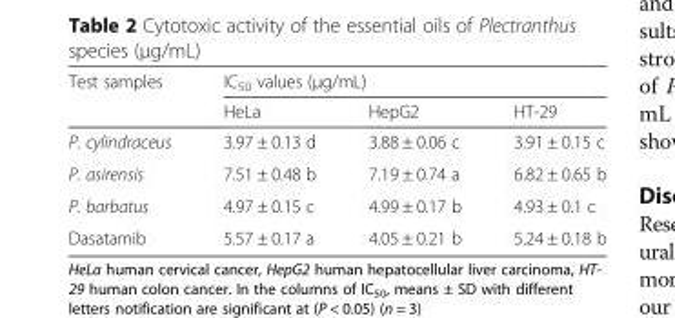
<table><thead><tr><td rowspan="2">Test samples</td><td colspan="3">IC<sub>50</sub> values (μg/mL)</td></tr><tr><td>HeLa</td><td>HepG2</td><td>HT-29</td></tr></thead><tbody><tr><td>P. cylindraceus</td><td>3.97 ± 0.13 d</td><td>3.88 ± 0.06 c</td><td>3.91 ± 0.15 c</td></tr><tr><td>P. asirensis</td><td>7.51 ± 0.48 b</td><td>7.19 ± 0.74 a</td><td>6.82 ± 0.65 b</td></tr><tr><td>P. barbatus</td><td>4.97 ± 0.15 c</td><td>4.99 ± 0.17 b</td><td>4.93 ± 0.1 c</td></tr><tr><td>Dasatamib</td><td>5.57 ± 0.17 a</td><td>4.05 ± 0.21 b</td><td>5.24 ± 0.18 b</td></tr></tbody></table>